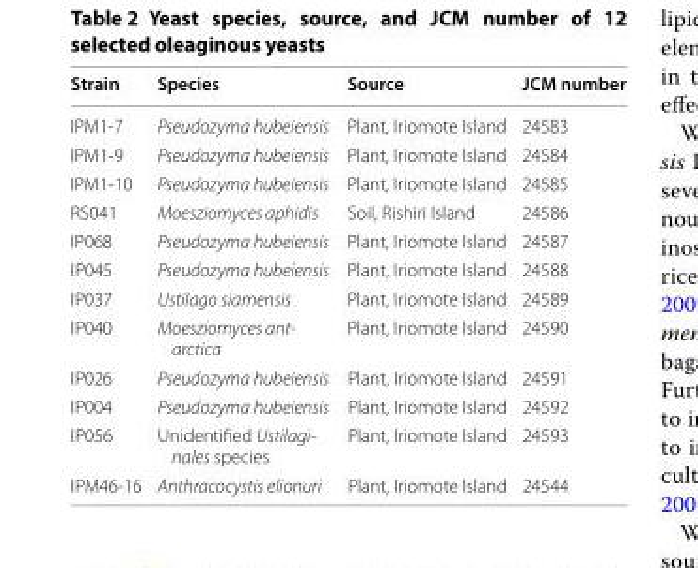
<table><thead><tr><td>Strain</td><td>Species</td><td>Source</td><td>JCM number</td></tr></thead><tbody><tr><td>IPM1-7</td><td>Pseudozyma hubeiensis</td><td>Plant, Iriomote Island</td><td>24583</td></tr><tr><td>IPM1-9</td><td>Pseudozyma hubeiensis</td><td>Plant, Iriomote Island</td><td>24584</td></tr><tr><td>IPM1-10</td><td>Pseudozyma hubeiensis</td><td>Plant, Iriomote Island</td><td>24585</td></tr><tr><td>RS041</td><td>Moesziomyces aphidis</td><td>Soil, Rishiri Island</td><td>24586</td></tr><tr><td>IP068</td><td>Pseudozyma hubeiensis</td><td>Plant, Iriomote Island</td><td>24587</td></tr><tr><td>IP045</td><td>Pseudozyma hubeiensis</td><td>Plant, Iriomote Island</td><td>24588</td></tr><tr><td>IP037</td><td>Ustilago siamensis</td><td>Plant, Iriomote Island</td><td>24589</td></tr><tr><td>IP040</td><td>Moesziomyces ant- arctica</td><td>Plant, Iriomote Island</td><td>24590</td></tr><tr><td>IP026</td><td>Pseudozyma hubeiensis</td><td>Plant, Iriomote Island</td><td>24591</td></tr><tr><td>IP004</td><td>Pseudozyma hubeiensis</td><td>Plant, Iriomote Island</td><td>24592</td></tr><tr><td>IP056</td><td>Unidentified Ustilagi- nales species</td><td>Plant, Iriomote Island</td><td>24593</td></tr><tr><td>IPM46-16</td><td>Anthracocystis elionuri</td><td>Plant, Iriomote Island</td><td>24544</td></tr></tbody></table>